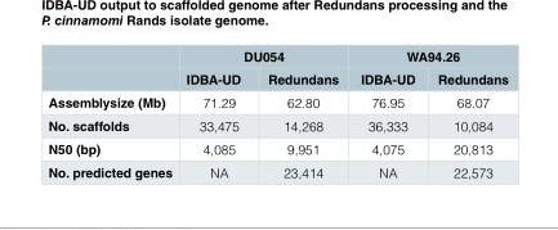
<table><thead><tr><td rowspan="2"></td><td colspan="2">DU054</td><td colspan="2">WA94.26</td></tr><tr><td>IDBA-UD</td><td>Redundans</td><td>IDBA-UD</td><td>Redundans</td></tr></thead><tbody><tr><td>Assemblysize (Mb)</td><td>71.29</td><td>62.80</td><td>76.95</td><td>68.07</td></tr><tr><td>No. scaffolds</td><td>33,475</td><td>14,268</td><td>36,333</td><td>10,084</td></tr><tr><td>N50 (bp)</td><td>4,085</td><td>9,951</td><td>4,075</td><td>20,813</td></tr><tr><td>No. predicted genes</td><td>NA</td><td>23,414</td><td>NA</td><td>22,573</td></tr></tbody></table>